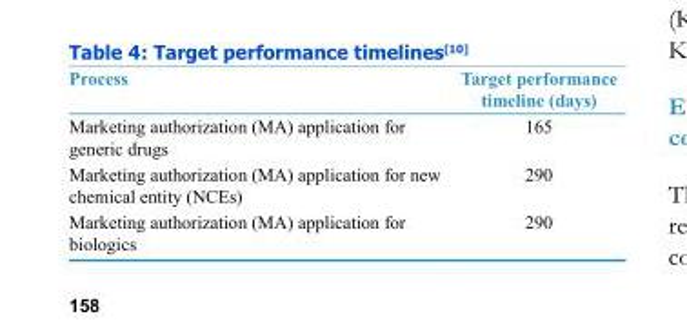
<table><thead><tr><td>Process</td><td>Target performance timeline (days)</td></tr></thead><tbody><tr><td>Marketing authorization (MA) application for generic drugs</td><td>165</td></tr><tr><td>Marketing authorization (MA) application for new chemical entity (NCEs)</td><td>290</td></tr><tr><td>Marketing authorization (MA) application for biologics</td><td>290</td></tr></tbody></table>